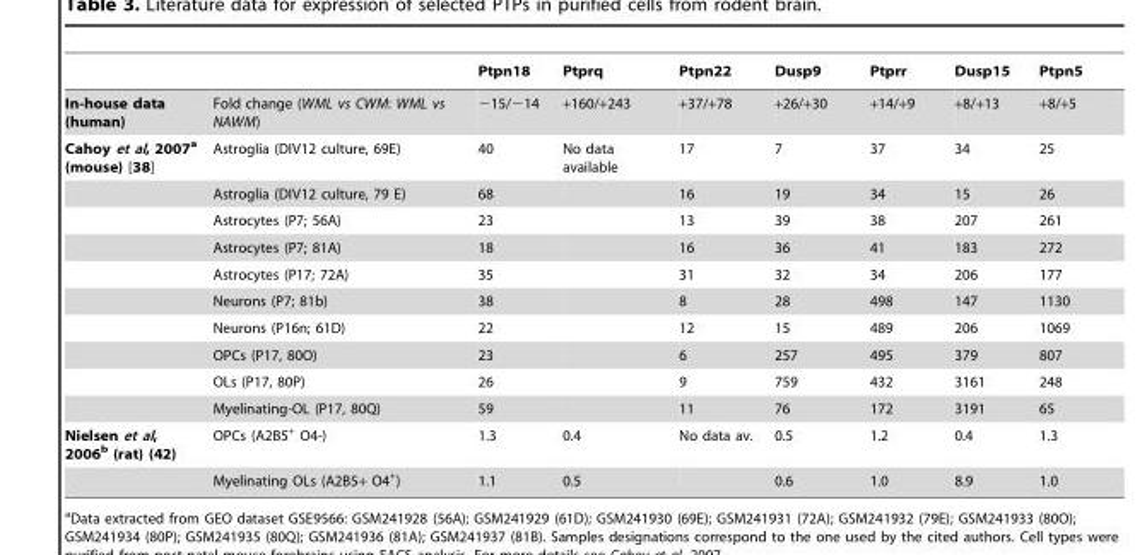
<table><thead><tr><td></td><td></td><td>Ptpn18</td><td>Ptprq</td><td>Ptpn22</td><td>Dusp9</td><td>Ptprr</td><td>Dusp15</td><td>Ptpn5</td></tr></thead><tbody><tr><td>In-house data (human)</td><td>Fold change (WML vs CWM: WML vs NAWM)</td><td>−15/−14</td><td>+160/+243</td><td>+37/+78</td><td>+26/+30</td><td>+14/+9</td><td>+8/+13</td><td>+8/+5</td></tr><tr><td rowspan="10">Cahoy et al, 2007a (mouse) [38]</td><td>Astroglia (DIV12 culture, 69E)</td><td>40</td><td>No data available</td><td>17</td><td>7</td><td>37</td><td>34</td><td>25</td></tr><tr><td>Astroglia (DIV12 culture, 79 E)</td><td>68</td><td></td><td>16</td><td>19</td><td>34</td><td>15</td><td>26</td></tr><tr><td>Astrocytes (P7; 56A)</td><td>23</td><td></td><td>13</td><td>39</td><td>38</td><td>207</td><td>261</td></tr><tr><td>Astrocytes (P7; 81A)</td><td>18</td><td></td><td>16</td><td>36</td><td>41</td><td>183</td><td>272</td></tr><tr><td>Astrocytes (P17; 72A)</td><td>35</td><td></td><td>31</td><td>32</td><td>34</td><td>206</td><td>177</td></tr><tr><td>Neurons (P7; 81b)</td><td>38</td><td></td><td>8</td><td>28</td><td>498</td><td>147</td><td>1130</td></tr><tr><td>Neurons (P16n; 61D)</td><td>22</td><td></td><td>12</td><td>15</td><td>489</td><td>206</td><td>1069</td></tr><tr><td>OPCs (P17, 80O)</td><td>23</td><td></td><td>6</td><td>257</td><td>495</td><td>379</td><td>807</td></tr><tr><td>OLs (P17, 80P)</td><td>26</td><td></td><td>9</td><td>759</td><td>432</td><td>3161</td><td>248</td></tr><tr><td>Myelinating-OL (P17, 80Q)</td><td>59</td><td></td><td>11</td><td>76</td><td>172</td><td>3191</td><td>65</td></tr><tr><td rowspan="2">Nielsen et al, 2006b (rat) (42)</td><td>OPCs (A2B5<sup>+</sup> O4-)</td><td>1.3</td><td>0.4</td><td>No data av.</td><td>0.5</td><td>1.2</td><td>0.4</td><td>1.3</td></tr><tr><td>Myelinating OLs (A2B5+ O4<sup>+</sup>)</td><td>1.1</td><td>0.5</td><td></td><td>0.6</td><td>1.0</td><td>8.9</td><td>1.0</td></tr></tbody></table>